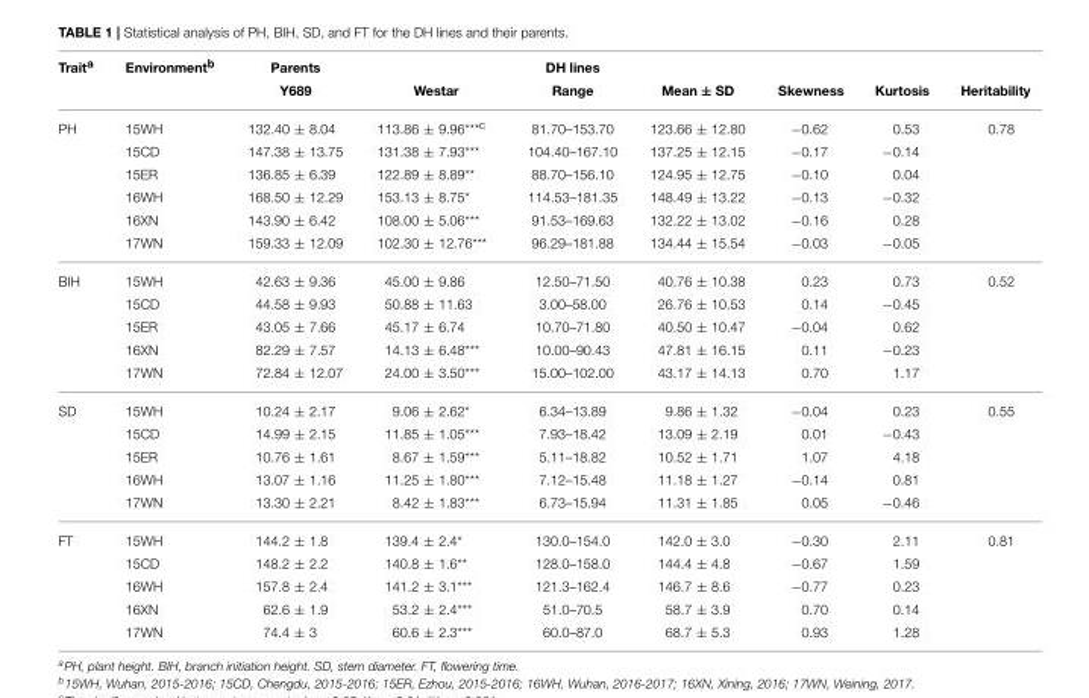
<table><thead><tr><td rowspan="2">Trait<sup>a</sup></td><td rowspan="2">Environment<sup>b</sup></td><td rowspan="2">Parents Y689</td><td rowspan="2">Westar</td><td rowspan="2">DH lines Range</td><td rowspan="2">Mean ± SD</td><td rowspan="2">Skewness</td><td rowspan="2">Kurtosis</td><td rowspan="2">Heritability</td></tr><tr></tr></thead><tbody><tr><td rowspan="6">PH</td><td>15WH</td><td>132.40 ± 8.04</td><td>113.86 ± 9.96<sup>***c</sup></td><td>81.70–153.70</td><td>123.66 ± 12.80</td><td>−0.62</td><td>0.53</td><td>0.78</td></tr><tr><td>15CD</td><td>147.38 ± 13.75</td><td>131.38 ± 7.93***</td><td>104.40–167.10</td><td>137.25 ± 12.15</td><td>−0.17</td><td>−0.14</td><td></td></tr><tr><td>15ER</td><td>136.85 ± 6.39</td><td>122.89 ± 8.89**</td><td>88.70–156.10</td><td>124.95 ± 12.75</td><td>−0.10</td><td>0.04</td><td></td></tr><tr><td>16WH</td><td>168.50 ± 12.29</td><td>153.13 ± 8.75*</td><td>114.53–181.35</td><td>148.49 ± 13.22</td><td>−0.13</td><td>−0.32</td><td></td></tr><tr><td>16XN</td><td>143.90 ± 6.42</td><td>108.00 ± 5.06***</td><td>91.53–169.63</td><td>132.22 ± 13.02</td><td>−0.16</td><td>0.28</td><td></td></tr><tr><td>17WN</td><td>159.33 ± 12.09</td><td>102.30 ± 12.76***</td><td>96.29–181.88</td><td>134.44 ± 15.54</td><td>−0.03</td><td>−0.05</td><td></td></tr><tr><td rowspan="5">BIH</td><td>15WH</td><td>42.63 ± 9.36</td><td>45.00 ± 9.86</td><td>12.50–71.50</td><td>40.76 ± 10.38</td><td>0.23</td><td>0.73</td><td>0.52</td></tr><tr><td>15CD</td><td>44.58 ± 9.93</td><td>50.88 ± 11.63</td><td>3.00–58.00</td><td>26.76 ± 10.53</td><td>0.14</td><td>−0.45</td><td></td></tr><tr><td>15ER</td><td>43.05 ± 7.66</td><td>45.17 ± 6.74</td><td>10.70–71.80</td><td>40.50 ± 10.47</td><td>−0.04</td><td>0.62</td><td></td></tr><tr><td>16XN</td><td>82.29 ± 7.57</td><td>14.13 ± 6.48***</td><td>10.00–90.43</td><td>47.81 ± 16.15</td><td>0.11</td><td>−0.23</td><td></td></tr><tr><td>17WN</td><td>72.84 ± 12.07</td><td>24.00 ± 3.50***</td><td>15.00–102.00</td><td>43.17 ± 14.13</td><td>0.70</td><td>1.17</td><td></td></tr><tr><td rowspan="5">SD</td><td>15WH</td><td>10.24 ± 2.17</td><td>9.06 ± 2.62*</td><td>6.34–13.89</td><td>9.86 ± 1.32</td><td>−0.04</td><td>0.23</td><td>0.55</td></tr><tr><td>15CD</td><td>14.99 ± 2.15</td><td>11.85 ± 1.05***</td><td>7.93–18.42</td><td>13.09 ± 2.19</td><td>0.01</td><td>−0.43</td><td></td></tr><tr><td>15ER</td><td>10.76 ± 1.61</td><td>8.67 ± 1.59***</td><td>5.11–18.82</td><td>10.52 ± 1.71</td><td>1.07</td><td>4.18</td><td></td></tr><tr><td>16WH</td><td>13.07 ± 1.16</td><td>11.25 ± 1.80***</td><td>7.12–15.48</td><td>11.18 ± 1.27</td><td>−0.14</td><td>0.81</td><td></td></tr><tr><td>17WN</td><td>13.30 ± 2.21</td><td>8.42 ± 1.83***</td><td>6.73–15.94</td><td>11.31 ± 1.85</td><td>0.05</td><td>−0.46</td><td></td></tr><tr><td rowspan="5">FT</td><td>15WH</td><td>144.2 ± 1.8</td><td>139.4 ± 2.4*</td><td>130.0–154.0</td><td>142.0 ± 3.0</td><td>−0.30</td><td>2.11</td><td>0.81</td></tr><tr><td>15CD</td><td>148.2 ± 2.2</td><td>140.8 ± 1.6**</td><td>128.0–158.0</td><td>144.4 ± 4.8</td><td>−0.67</td><td>1.59</td><td></td></tr><tr><td>16WH</td><td>157.8 ± 2.4</td><td>141.2 ± 3.1***</td><td>121.3–162.4</td><td>146.7 ± 8.6</td><td>−0.77</td><td>0.23</td><td></td></tr><tr><td>16XN</td><td>62.6 ± 1.9</td><td>53.2 ± 2.4***</td><td>51.0–70.5</td><td>58.7 ± 3.9</td><td>0.70</td><td>0.14</td><td></td></tr><tr><td>17WN</td><td>74.4 ± 3</td><td>60.6 ± 2.3***</td><td>60.0–87.0</td><td>68.7 ± 5.3</td><td>0.93</td><td>1.28</td><td></td></tr></tbody></table>